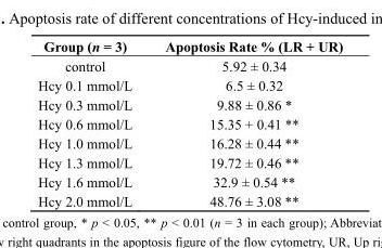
<table><thead><tr><td>Group (n = 3)</td><td>Apoptosis Rate % (LR + UR)</td></tr></thead><tbody><tr><td>control</td><td>5.92 ± 0.34</td></tr><tr><td>Hcy 0.1 mmol/L</td><td>6.5 ± 0.32</td></tr><tr><td>Hcy 0.3 mmol/L</td><td>9.88 ± 0.86 *</td></tr><tr><td>Hcy 0.6 mmol/L</td><td>15.35 + 0.41 **</td></tr><tr><td>Hcy 1.0 mmol/L</td><td>16.28 ± 0.44 **</td></tr><tr><td>Hcy 1.3 mmol/L</td><td>19.72 ± 0.46 **</td></tr><tr><td>Hcy 1.6 mmol/L</td><td>32.9 ± 0.54 **</td></tr><tr><td>Hcy 2.0 mmol/L</td><td>48.76 ± 3.08 **</td></tr></tbody></table>